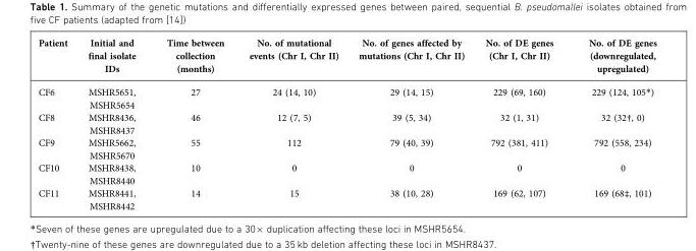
<table><thead><tr><td>Patient</td><td>Initial and final isolate IDs</td><td>Time between collection (months)</td><td>No. of mutational events (Chr I, Chr II)</td><td>No. of genes affected by mutations (Chr I, Chr II)</td><td>No. of DE genes (Chr I, Chr II)</td><td>No. of DE genes (downregulated, upregulated)</td></tr></thead><tbody><tr><td>CF6</td><td>MSHR5651, MSHR5654</td><td>27</td><td>24 (14, 10)</td><td>29 (14, 15)</td><td>229 (69, 160)</td><td>229 (124, 105*)</td></tr><tr><td>CF8</td><td>MSHR8436, MSHR8437</td><td>46</td><td>12 (7, 5)</td><td>39 (5, 34)</td><td>32 (1, 31)</td><td>32 (32†, 0)</td></tr><tr><td>CF9</td><td>MSHR5662, MSHR5670</td><td>55</td><td>112</td><td>79 (40, 39)</td><td>792 (381, 411)</td><td>792 (558, 234)</td></tr><tr><td>CF10</td><td>MSHR8438, MSHR8440</td><td>10</td><td>0</td><td>0</td><td>0</td><td>0</td></tr><tr><td>CF11</td><td>MSHR8441, MSHR8442</td><td>14</td><td>15</td><td>38 (10, 28)</td><td>169 (62, 107)</td><td>169 (68‡, 101)</td></tr></tbody></table>